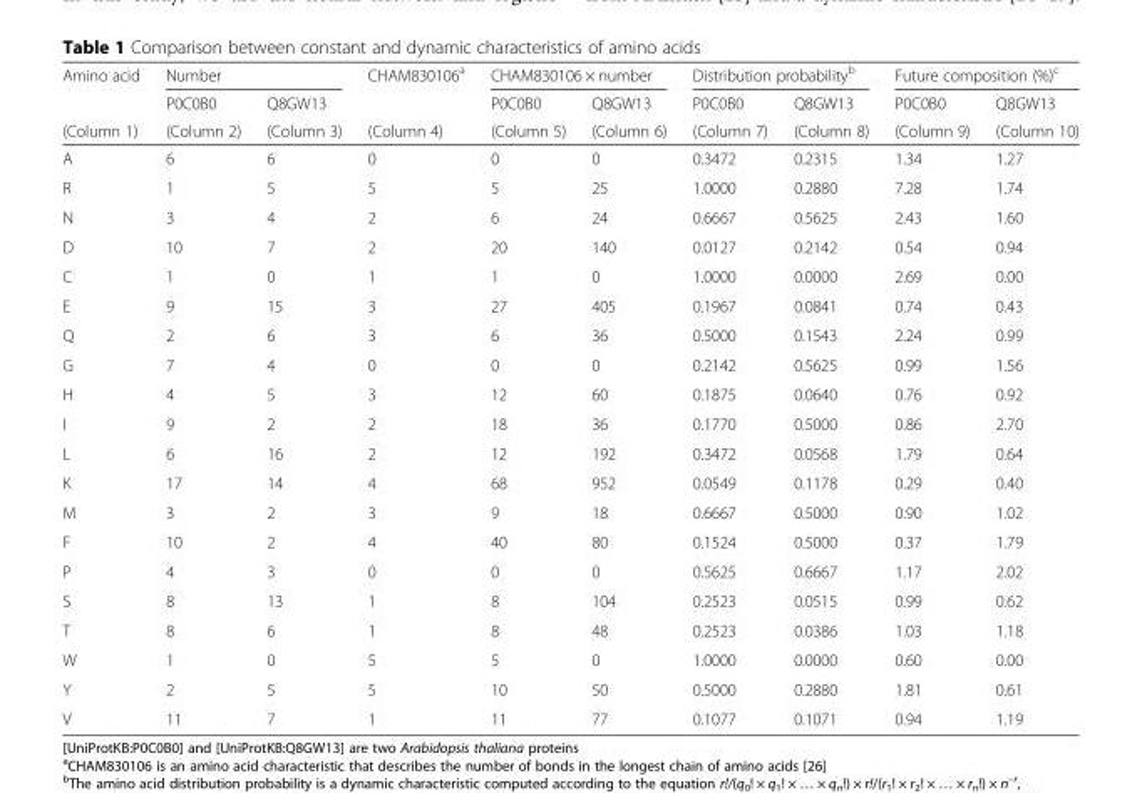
<table><thead><tr><td rowspan="3">Amino acid (Column 1)</td><td colspan="2">Number</td><td rowspan="3">CHAM830106<sup>a</sup> (Column 4)</td><td colspan="2">CHAM830106 × number</td><td colspan="2">Distribution probability<sup>b</sup></td><td colspan="2">Future composition (%)<sup>c</sup></td></tr><tr><td rowspan="2">P0C0B0 (Column 2)</td><td rowspan="2">Q8GW13 (Column 3)</td><td rowspan="2">P0C0B0 (Column 5)</td><td rowspan="2">Q8GW13 (Column 6)</td><td rowspan="2">P0C0B0 (Column 7)</td><td rowspan="2">Q8GW13 (Column 8)</td><td rowspan="2">P0C0B0 (Column 9)</td><td rowspan="2">Q8GW13 (Column 10)</td></tr><tr></tr></thead><tbody><tr><td>A</td><td>6</td><td>6</td><td>0</td><td>0</td><td>0</td><td>0.3472</td><td>0.2315</td><td>1.34</td><td>1.27</td></tr><tr><td>R</td><td>1</td><td>5</td><td>5</td><td>5</td><td>25</td><td>1.0000</td><td>0.2880</td><td>7.28</td><td>1.74</td></tr><tr><td>N</td><td>3</td><td>4</td><td>2</td><td>6</td><td>24</td><td>0.6667</td><td>0.5625</td><td>2.43</td><td>1.60</td></tr><tr><td>D</td><td>10</td><td>7</td><td>2</td><td>20</td><td>140</td><td>0.0127</td><td>0.2142</td><td>0.54</td><td>0.94</td></tr><tr><td>C</td><td>1</td><td>0</td><td>1</td><td>1</td><td>0</td><td>1.0000</td><td>0.0000</td><td>2.69</td><td>0.00</td></tr><tr><td>E</td><td>9</td><td>15</td><td>3</td><td>27</td><td>405</td><td>0.1967</td><td>0.0841</td><td>0.74</td><td>0.43</td></tr><tr><td>Q</td><td>2</td><td>6</td><td>3</td><td>6</td><td>36</td><td>0.5000</td><td>0.1543</td><td>2.24</td><td>0.99</td></tr><tr><td>G</td><td>7</td><td>4</td><td>0</td><td>0</td><td>0</td><td>0.2142</td><td>0.5625</td><td>0.99</td><td>1.56</td></tr><tr><td>H</td><td>4</td><td>5</td><td>3</td><td>12</td><td>60</td><td>0.1875</td><td>0.0640</td><td>0.76</td><td>0.92</td></tr><tr><td>I</td><td>9</td><td>2</td><td>2</td><td>18</td><td>36</td><td>0.1770</td><td>0.5000</td><td>0.86</td><td>2.70</td></tr><tr><td>L</td><td>6</td><td>16</td><td>2</td><td>12</td><td>192</td><td>0.3472</td><td>0.0568</td><td>1.79</td><td>0.64</td></tr><tr><td>K</td><td>17</td><td>14</td><td>4</td><td>68</td><td>952</td><td>0.0549</td><td>0.1178</td><td>0.29</td><td>0.40</td></tr><tr><td>M</td><td>3</td><td>2</td><td>3</td><td>9</td><td>18</td><td>0.6667</td><td>0.5000</td><td>0.90</td><td>1.02</td></tr><tr><td>F</td><td>10</td><td>2</td><td>4</td><td>40</td><td>80</td><td>0.1524</td><td>0.5000</td><td>0.37</td><td>1.79</td></tr><tr><td>P</td><td>4</td><td>3</td><td>0</td><td>0</td><td>0</td><td>0.5625</td><td>0.6667</td><td>1.17</td><td>2.02</td></tr><tr><td>S</td><td>8</td><td>13</td><td>1</td><td>8</td><td>104</td><td>0.2523</td><td>0.0515</td><td>0.99</td><td>0.62</td></tr><tr><td>T</td><td>8</td><td>6</td><td>1</td><td>8</td><td>48</td><td>0.2523</td><td>0.0386</td><td>1.03</td><td>1.18</td></tr><tr><td>W</td><td>1</td><td>0</td><td>5</td><td>5</td><td>0</td><td>1.0000</td><td>0.0000</td><td>0.60</td><td>0.00</td></tr><tr><td>Y</td><td>2</td><td>5</td><td>5</td><td>10</td><td>50</td><td>0.5000</td><td>0.2880</td><td>1.81</td><td>0.61</td></tr><tr><td>V</td><td>11</td><td>7</td><td>1</td><td>11</td><td>77</td><td>0.1077</td><td>0.1071</td><td>0.94</td><td>1.19</td></tr></tbody></table>